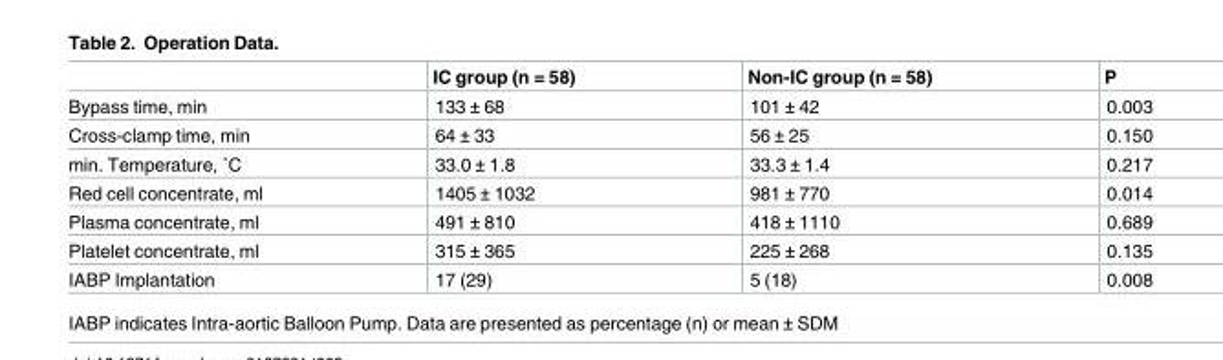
<table><thead><tr><td></td><td>IC group (n = 58)</td><td>Non-IC group (n = 58)</td><td>P</td></tr></thead><tbody><tr><td>Bypass time, min</td><td>133 ± 68</td><td>101 ± 42</td><td>0.003</td></tr><tr><td>Cross-clamp time, min</td><td>64 ± 33</td><td>56 ± 25</td><td>0.150</td></tr><tr><td>min. Temperature, ˚C</td><td>33.0 ± 1.8</td><td>33.3 ± 1.4</td><td>0.217</td></tr><tr><td>Red cell concentrate, ml</td><td>1405 ± 1032</td><td>981 ± 770</td><td>0.014</td></tr><tr><td>Plasma concentrate, ml</td><td>491 ± 810</td><td>418 ± 1110</td><td>0.689</td></tr><tr><td>Platelet concentrate, ml</td><td>315 ± 365</td><td>225 ± 268</td><td>0.135</td></tr><tr><td>IABP Implantation</td><td>17 (29)</td><td>5 (18)</td><td>0.008</td></tr></tbody></table>